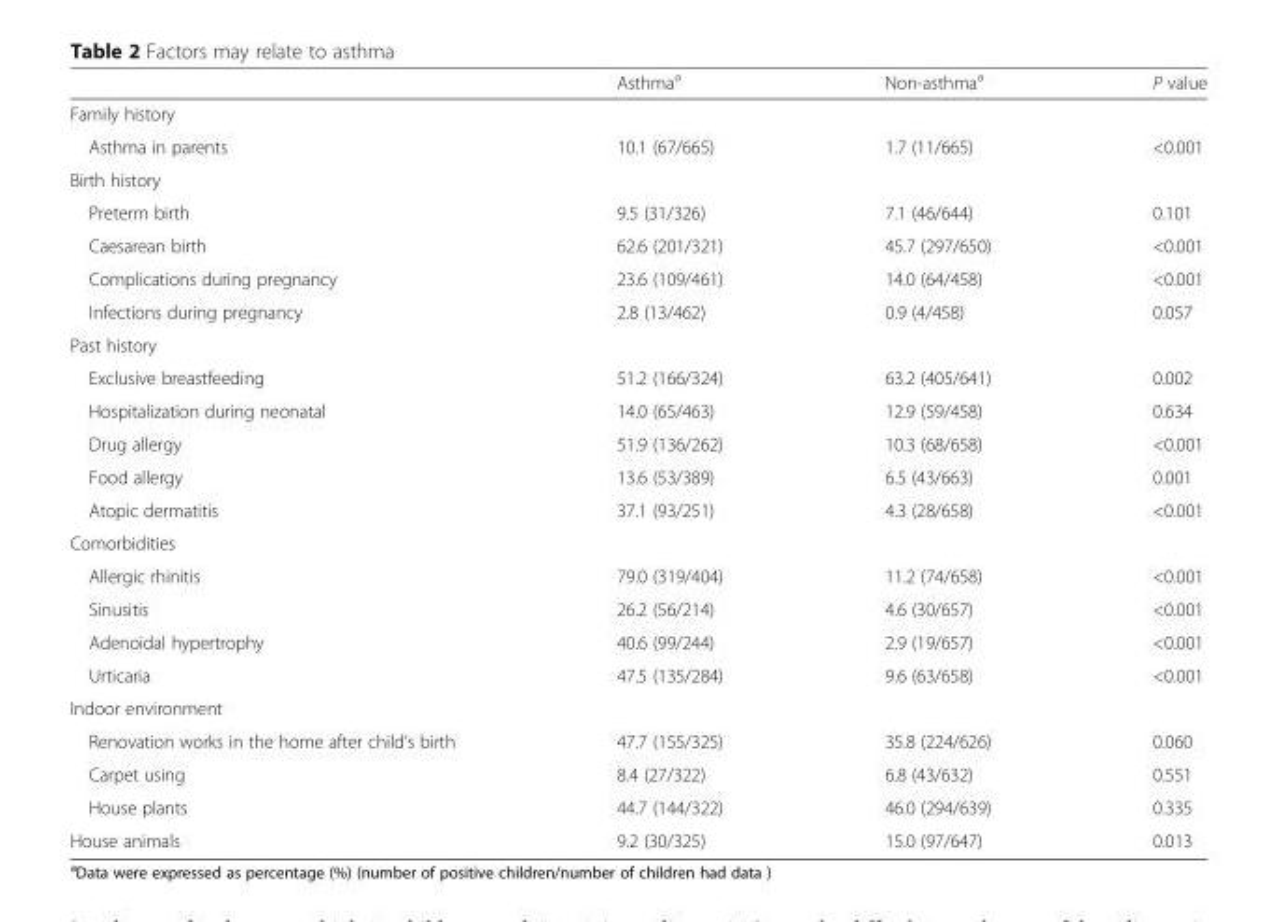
<table><thead><tr><td></td><td>Asthma<sup>a</sup></td><td>Non-asthma<sup>a</sup></td><td>P value</td></tr></thead><tbody><tr><td colspan="4">Family history</td></tr><tr><td>Asthma in parents</td><td>10.1 (67/665)</td><td>1.7 (11/665)</td><td>&lt;0.001</td></tr><tr><td colspan="4">Birth history</td></tr><tr><td>Preterm birth</td><td>9.5 (31/326)</td><td>7.1 (46/644)</td><td>0.101</td></tr><tr><td>Caesarean birth</td><td>62.6 (201/321)</td><td>45.7 (297/650)</td><td>&lt;0.001</td></tr><tr><td>Complications during pregnancy</td><td>23.6 (109/461)</td><td>14.0 (64/458)</td><td>&lt;0.001</td></tr><tr><td>Infections during pregnancy</td><td>2.8 (13/462)</td><td>0.9 (4/458)</td><td>0.057</td></tr><tr><td colspan="4">Past history</td></tr><tr><td>Exclusive breastfeeding</td><td>51.2 (166/324)</td><td>63.2 (405/641)</td><td>0.002</td></tr><tr><td>Hospitalization during neonatal</td><td>14.0 (65/463)</td><td>12.9 (59/458)</td><td>0.634</td></tr><tr><td>Drug allergy</td><td>51.9 (136/262)</td><td>10.3 (68/658)</td><td>&lt;0.001</td></tr><tr><td>Food allergy</td><td>13.6 (53/389)</td><td>6.5 (43/663)</td><td>0.001</td></tr><tr><td>Atopic dermatitis</td><td>37.1 (93/251)</td><td>4.3 (28/658)</td><td>&lt;0.001</td></tr><tr><td colspan="4">Comorbidities</td></tr><tr><td>Allergic rhinitis</td><td>79.0 (319/404)</td><td>11.2 (74/658)</td><td>&lt;0.001</td></tr><tr><td>Sinusitis</td><td>26.2 (56/214)</td><td>4.6 (30/657)</td><td>&lt;0.001</td></tr><tr><td>Adenoidal hypertrophy</td><td>40.6 (99/244)</td><td>2.9 (19/657)</td><td>&lt;0.001</td></tr><tr><td>Urticaria</td><td>47.5 (135/284)</td><td>9.6 (63/658)</td><td>&lt;0.001</td></tr><tr><td colspan="4">Indoor environment</td></tr><tr><td>Renovation works in the home after child’s birth</td><td>47.7 (155/325)</td><td>35.8 (224/626)</td><td>0.060</td></tr><tr><td>Carpet using</td><td>8.4 (27/322)</td><td>6.8 (43/632)</td><td>0.551</td></tr><tr><td>House plants</td><td>44.7 (144/322)</td><td>46.0 (294/639)</td><td>0.335</td></tr><tr><td>House animals</td><td>9.2 (30/325)</td><td>15.0 (97/647)</td><td>0.013</td></tr></tbody></table>